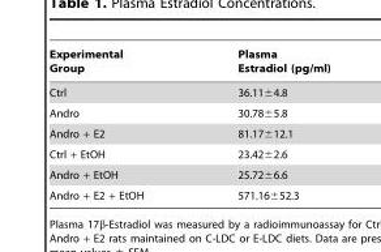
<table><thead><tr><td>Experimental Group</td><td>Plasma Estradiol (pg/ml)</td></tr></thead><tbody><tr><td>Ctrl</td><td>36.11±4.8</td></tr><tr><td>Andro</td><td>30.78±5.8</td></tr><tr><td>Andro + E2</td><td>81.17±12.1</td></tr><tr><td>Ctrl + EtOH</td><td>23.42±2.6</td></tr><tr><td>Andro + EtOH</td><td>25.72±6.6</td></tr><tr><td>Andro + E2 + EtOH</td><td>571.16±52.3</td></tr></tbody></table>